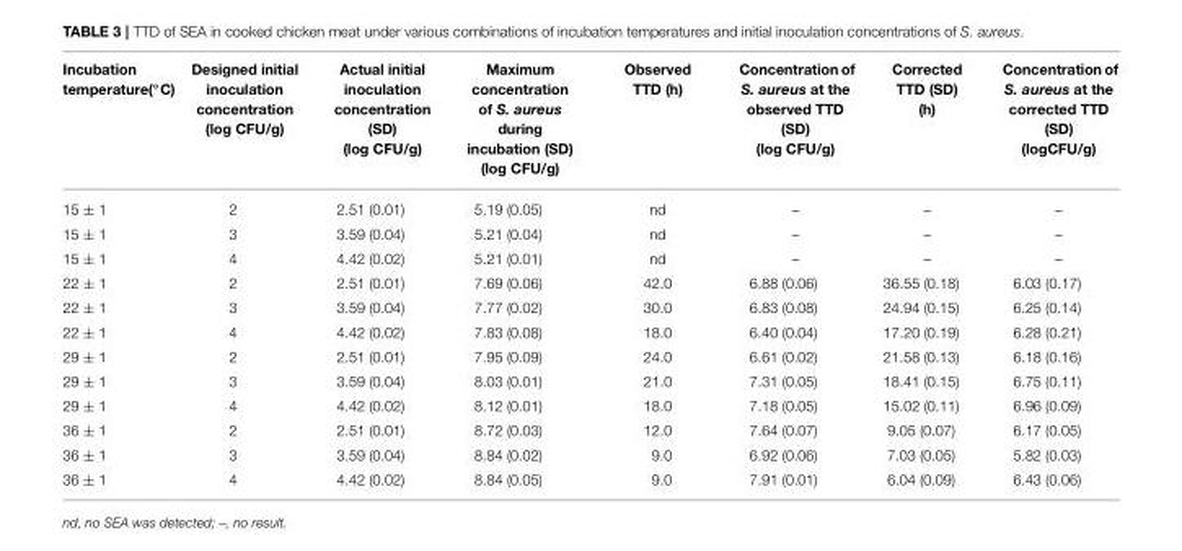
<table><thead><tr><td>Incubation temperature(◦C)</td><td>Designed initial inoculation concentration (log CFU/g)</td><td>Actual initial inoculation concentration (SD) (log CFU/g)</td><td>Maximum concentration of S. aureus during incubation (SD) (log CFU/g)</td><td>Observed TTD (h)</td><td>Concentration of S. aureus at the observed TTD (SD) (log CFU/g)</td><td>Corrected TTD (SD) (h)</td><td>Concentration of S. aureus at the corrected TTD (SD) (logCFU/g)</td></tr></thead><tbody><tr><td>15 ± 1</td><td>2</td><td>2.51 (0.01)</td><td>5.19 (0.05)</td><td>nd</td><td>–</td><td>–</td><td>–</td></tr><tr><td>15 ± 1</td><td>3</td><td>3.59 (0.04)</td><td>5.21 (0.04)</td><td>nd</td><td>–</td><td>–</td><td>–</td></tr><tr><td>15 ± 1</td><td>4</td><td>4.42 (0.02)</td><td>5.21 (0.01)</td><td>nd</td><td>–</td><td>–</td><td>–</td></tr><tr><td>22 ± 1</td><td>2</td><td>2.51 (0.01)</td><td>7.69 (0.06)</td><td>42.0</td><td>6.88 (0.06)</td><td>36.55 (0.18)</td><td>6.03 (0.17)</td></tr><tr><td>22 ± 1</td><td>3</td><td>3.59 (0.04)</td><td>7.77 (0.02)</td><td>30.0</td><td>6.83 (0.08)</td><td>24.94 (0.15)</td><td>6.25 (0.14)</td></tr><tr><td>22 ± 1</td><td>4</td><td>4.42 (0.02)</td><td>7.83 (0.08)</td><td>18.0</td><td>6.40 (0.04)</td><td>17.20 (0.19)</td><td>6.28 (0.21)</td></tr><tr><td>29 ± 1</td><td>2</td><td>2.51 (0.01)</td><td>7.95 (0.09)</td><td>24.0</td><td>6.61 (0.02)</td><td>21.58 (0.13)</td><td>6.18 (0.16)</td></tr><tr><td>29 ± 1</td><td>3</td><td>3.59 (0.04)</td><td>8.03 (0.01)</td><td>21.0</td><td>7.31 (0.05)</td><td>18.41 (0.15)</td><td>6.75 (0.11)</td></tr><tr><td>29 ± 1</td><td>4</td><td>4.42 (0.02)</td><td>8.12 (0.01)</td><td>18.0</td><td>7.18 (0.05)</td><td>15.02 (0.11)</td><td>6.96 (0.09)</td></tr><tr><td>36 ± 1</td><td>2</td><td>2.51 (0.01)</td><td>8.72 (0.03)</td><td>12.0</td><td>7.64 (0.07)</td><td>9.05 (0.07)</td><td>6.17 (0.05)</td></tr><tr><td>36 ± 1</td><td>3</td><td>3.59 (0.04)</td><td>8.84 (0.02)</td><td>9.0</td><td>6.92 (0.06)</td><td>7.03 (0.05)</td><td>5.82 (0.03)</td></tr><tr><td>36 ± 1</td><td>4</td><td>4.42 (0.02)</td><td>8.84 (0.05)</td><td>9.0</td><td>7.91 (0.01)</td><td>6.04 (0.09)</td><td>6.43 (0.06)</td></tr></tbody></table>